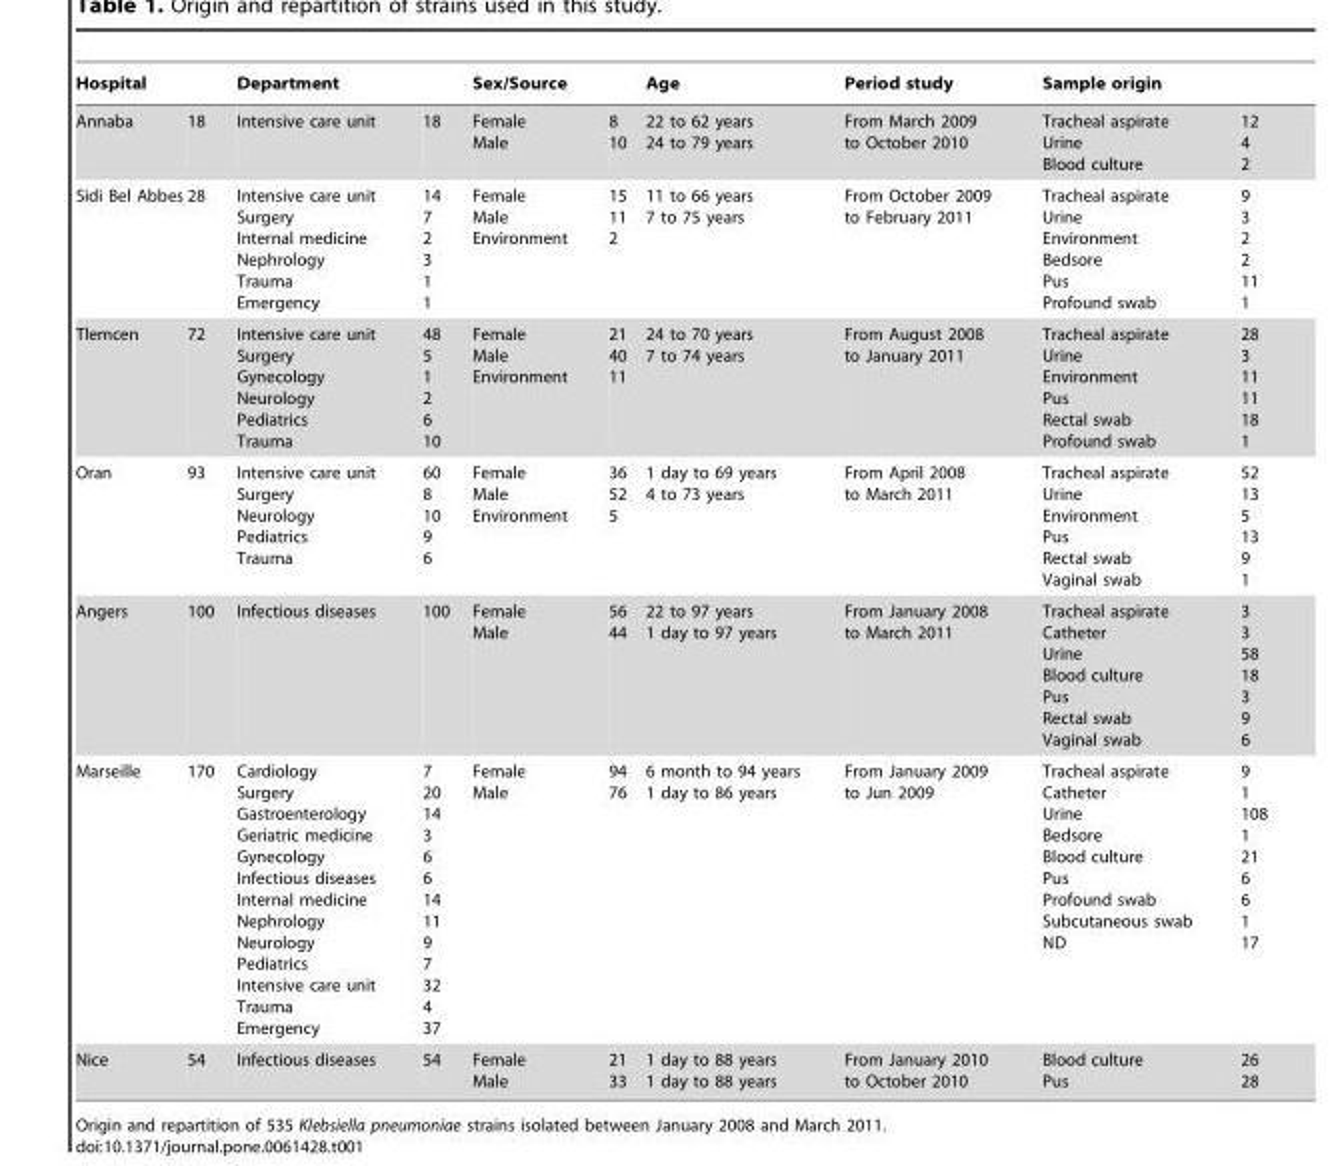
<table><thead><tr><td colspan="2">Hospital</td><td colspan="2">Department</td><td colspan="2">Sex/Source</td><td rowspan="2">Age 22 to 62 years 24 to 79 years</td><td rowspan="2">Period study From March 2009 to October 2010</td><td colspan="2">Sample origin</td></tr><tr><td>Annaba</td><td>18</td><td>Intensive care unit</td><td>18</td><td>Female Male</td><td>8 10</td><td>Tracheal aspirate Urine Blood culture</td><td>12 4 2</td></tr></thead><tbody><tr><td>Sidi Bel Abbes</td><td>28</td><td>Intensive care unit Surgery Internal medicine Nephrology Trauma Emergency</td><td>14 7 2 3 1 1</td><td>Female Male Environment</td><td>15 11 2</td><td>11 to 66 years 7 to 75 years</td><td>From October 2009 to February 2011</td><td>Tracheal aspirate Urine Environment Bedsore Pus Profound swab</td><td>9 3 2 2 11 1</td></tr><tr><td>Tlemcen</td><td>72</td><td>Intensive care unit Surgery Gynecology Neurology Pediatrics Trauma</td><td>48 5 1 2 6 10</td><td>Female Male Environment</td><td>21 40 11</td><td>24 to 70 years 7 to 74 years</td><td>From August 2008 to January 2011</td><td>Tracheal aspirate Urine Environment Pus Rectal swab Profound swab</td><td>28 3 11 11 18 1</td></tr><tr><td>Oran</td><td>93</td><td>Intensive care unit Surgery Neurology Pediatrics Trauma</td><td>60 8 10 9 6</td><td>Female Male Environment</td><td>36 52 5</td><td>1 day to 69 years 4 to 73 years</td><td>From April 2008 to March 2011</td><td>Tracheal aspirate Urine Environment Pus Rectal swab Vaginal swab</td><td>52 13 5 13 9 1</td></tr><tr><td>Angers</td><td>100</td><td>Infectious diseases</td><td>100</td><td>Female Male</td><td>56 44</td><td>22 to 97 years 1 day to 97 years</td><td>From January 2008 to March 2011</td><td>Tracheal aspirate Catheter Urine Blood culture Pus Rectal swab Vaginal swab</td><td>3 3 58 18 3 9 6</td></tr><tr><td>Marseille</td><td>170</td><td>Cardiology Surgery Gastroenterology Geriatric medicine Gynecology Infectious diseases Internal medicine Nephrology Neurology Pediatrics Intensive care unit Trauma Emergency</td><td>7 20 14 3 6 6 14 11 9 7 32 4 37</td><td>Female Male</td><td>94 76</td><td>6 month to 94 years 1 day to 86 years</td><td>From January 2009 to Jun 2009</td><td>Tracheal aspirate Catheter Urine Bedsore Blood culture Pus Profound swab Subcutaneous swab ND</td><td>9 1 108 1 21 6 6 1 17</td></tr><tr><td>Nice</td><td>54</td><td>Infectious diseases</td><td>54</td><td>Female Male</td><td>21 33</td><td>1 day to 88 years 1 day to 88 years</td><td>From January 2010 to October 2010</td><td>Blood culture Pus</td><td>26 28</td></tr></tbody></table>